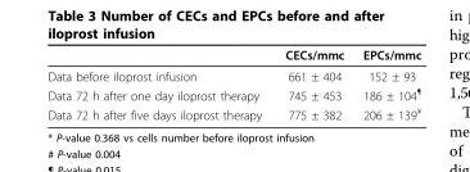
<table><thead><tr><td></td><td>CECs/mmc</td><td>EPCs/mmc</td></tr></thead><tbody><tr><td>Data before iloprost infusion</td><td>661 ± 404</td><td>152 ± 93</td></tr><tr><td>Data 72 h after one day iloprost therapy</td><td>745 ± 453</td><td>186 ± 104<sup>¶</sup></td></tr><tr><td>Data 72 h after five days iloprost therapy</td><td>775 ± 382</td><td>206 ± 139<sup>¥</sup></td></tr></tbody></table>